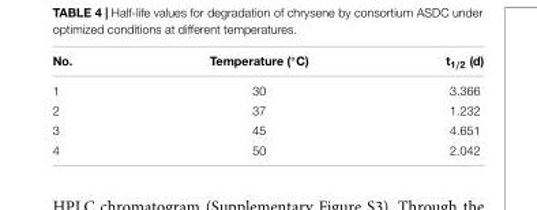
<table><thead><tr><td>No.</td><td>Temperature (◦C)</td><td>t<sub>1/2</sub> (d)</td></tr></thead><tbody><tr><td>1</td><td>30</td><td>3.366</td></tr><tr><td>2</td><td>37</td><td>1.232</td></tr><tr><td>3</td><td>45</td><td>4.651</td></tr><tr><td>4</td><td>50</td><td>2.042</td></tr></tbody></table>